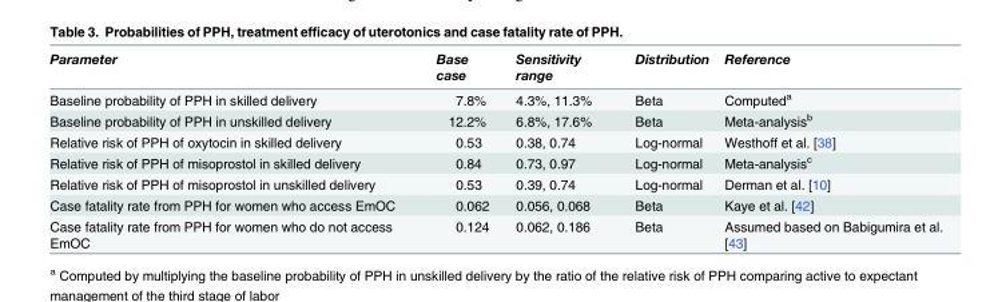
<table><thead><tr><td>Parameter</td><td>Base case</td><td>Sensitivity range</td><td>Distribution</td><td>Reference</td></tr></thead><tbody><tr><td>Baseline probability of PPH in skilled delivery</td><td>7.8%</td><td>4.3%, 11.3%</td><td>Beta</td><td>Computed<sup>a</sup></td></tr><tr><td>Baseline probability of PPH in unskilled delivery</td><td>12.2%</td><td>6.8%, 17.6%</td><td>Beta</td><td>Meta-analysis<sup>b</sup></td></tr><tr><td>Relative risk of PPH of oxytocin in skilled delivery</td><td>0.53</td><td>0.38, 0.74</td><td>Log-normal</td><td>Westhoff et al. [38]</td></tr><tr><td>Relative risk of PPH of misoprostol in skilled delivery</td><td>0.84</td><td>0.73, 0.97</td><td>Log-normal</td><td>Meta-analysis<sup>c</sup></td></tr><tr><td>Relative risk of PPH of misoprostol in unskilled delivery</td><td>0.53</td><td>0.39, 0.74</td><td>Log-normal</td><td>Derman et al. [10]</td></tr><tr><td>Case fatality rate from PPH for women who access EmOC</td><td>0.062</td><td>0.056, 0.068</td><td>Beta</td><td>Kaye et al. [42]</td></tr><tr><td>Case fatality rate from PPH for women who do not access EmOC</td><td>0.124</td><td>0.062, 0.186</td><td>Beta</td><td>Assumed based on Babigumira et al. [43]</td></tr></tbody></table>